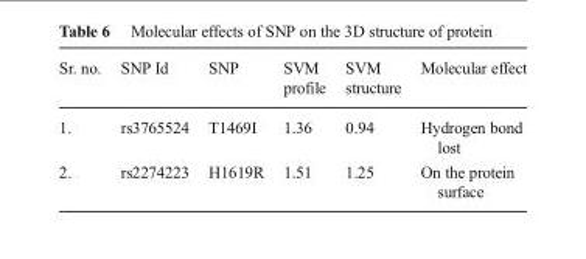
<table><thead><tr><td>Sr. no.</td><td>SNP Id</td><td>SNP</td><td>SVM profile</td><td>SVM structure</td><td>Molecular effect</td></tr></thead><tbody><tr><td>1.</td><td>rs3765524</td><td>T1469I</td><td>1.36</td><td>0.94</td><td>Hydrogen bond lost</td></tr><tr><td>2.</td><td>rs2274223</td><td>H1619R</td><td>1.51</td><td>1.25</td><td>On the protein surface</td></tr></tbody></table>